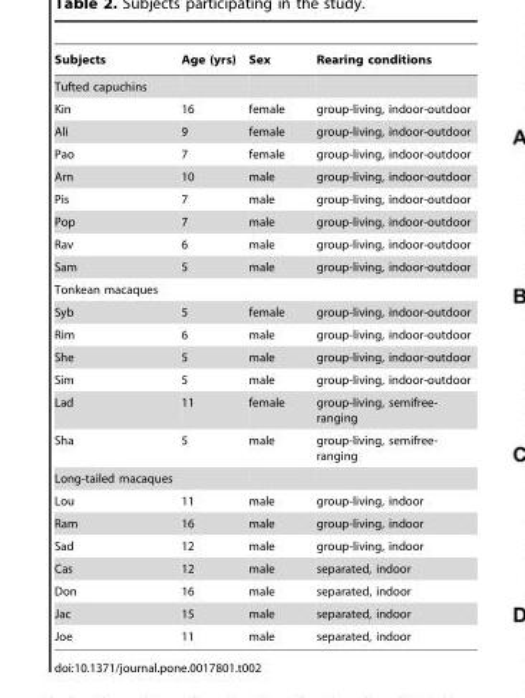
<table><thead><tr><td>Subjects</td><td>Age (yrs)</td><td>Sex</td><td>Rearing conditions</td></tr></thead><tbody><tr><td colspan="4">Tufted capuchins</td></tr><tr><td>Kin</td><td>16</td><td>female</td><td>group-living, indoor-outdoor</td></tr><tr><td>Ali</td><td>9</td><td>female</td><td>group-living, indoor-outdoor</td></tr><tr><td>Pao</td><td>7</td><td>female</td><td>group-living, indoor-outdoor</td></tr><tr><td>Arn</td><td>10</td><td>male</td><td>group-living, indoor-outdoor</td></tr><tr><td>Pis</td><td>7</td><td>male</td><td>group-living, indoor-outdoor</td></tr><tr><td>Pop</td><td>7</td><td>male</td><td>group-living, indoor-outdoor</td></tr><tr><td>Rav</td><td>6</td><td>male</td><td>group-living, indoor-outdoor</td></tr><tr><td>Sam</td><td>5</td><td>male</td><td>group-living, indoor-outdoor</td></tr><tr><td colspan="4">Tonkean macaques</td></tr><tr><td>Syb</td><td>5</td><td>female</td><td>group-living, indoor-outdoor</td></tr><tr><td>Rim</td><td>6</td><td>male</td><td>group-living, indoor-outdoor</td></tr><tr><td>She</td><td>5</td><td>male</td><td>group-living, indoor-outdoor</td></tr><tr><td>Sim</td><td>5</td><td>male</td><td>group-living, indoor-outdoor</td></tr><tr><td>Lad</td><td>11</td><td>female</td><td>group-living, semifree- ranging</td></tr><tr><td>Sha</td><td>5</td><td>male</td><td>group-living, semifree- ranging</td></tr><tr><td colspan="4">Long-tailed macaques</td></tr><tr><td>Lou</td><td>11</td><td>male</td><td>group-living, indoor</td></tr><tr><td>Ram</td><td>16</td><td>male</td><td>group-living, indoor</td></tr><tr><td>Sad</td><td>12</td><td>male</td><td>group-living, indoor</td></tr><tr><td>Cas</td><td>12</td><td>male</td><td>separated, indoor</td></tr><tr><td>Don</td><td>16</td><td>male</td><td>separated, indoor</td></tr><tr><td>Jac</td><td>15</td><td>male</td><td>separated, indoor</td></tr><tr><td>Joe</td><td>11</td><td>male</td><td>separated, indoor</td></tr></tbody></table>